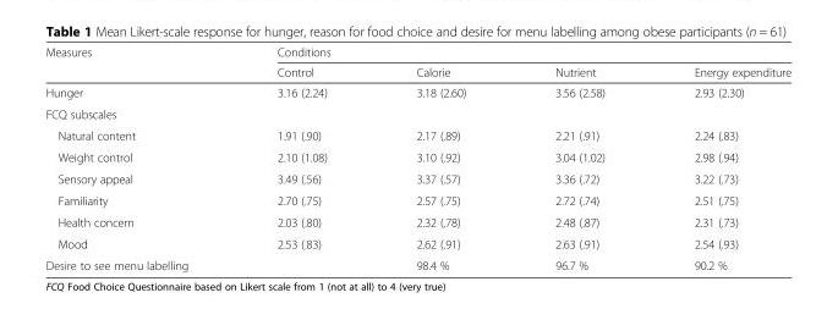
<table><thead><tr><td rowspan="2">Measures</td><td colspan="4">Conditions</td></tr><tr><td>Control</td><td>Calorie</td><td>Nutrient</td><td>Energy expenditure</td></tr></thead><tbody><tr><td>Hunger</td><td>3.16 (2.24)</td><td>3.18 (2.60)</td><td>3.56 (2.58)</td><td>2.93 (2.30)</td></tr><tr><td colspan="5">FCQ subscales</td></tr><tr><td>Natural content</td><td>1.91 (.90)</td><td>2.17 (.89)</td><td>2.21 (.91)</td><td>2.24 (.83)</td></tr><tr><td>Weight control</td><td>2.10 (1.08)</td><td>3.10 (.92)</td><td>3.04 (1.02)</td><td>2.98 (.94)</td></tr><tr><td>Sensory appeal</td><td>3.49 (.56)</td><td>3.37 (.57)</td><td>3.36 (.72)</td><td>3.22 (.73)</td></tr><tr><td>Familiarity</td><td>2.70 (.75)</td><td>2.57 (.75)</td><td>2.72 (.74)</td><td>2.51 (.75)</td></tr><tr><td>Health concern</td><td>2.03 (.80)</td><td>2.32 (.78)</td><td>2.48 (.87)</td><td>2.31 (.73)</td></tr><tr><td>Mood</td><td>2.53 (.83)</td><td>2.62 (.91)</td><td>2.63 (.91)</td><td>2.54 (.93)</td></tr><tr><td>Desire to see menu labelling</td><td></td><td>98.4 %</td><td>96.7 %</td><td>90.2 %</td></tr></tbody></table>